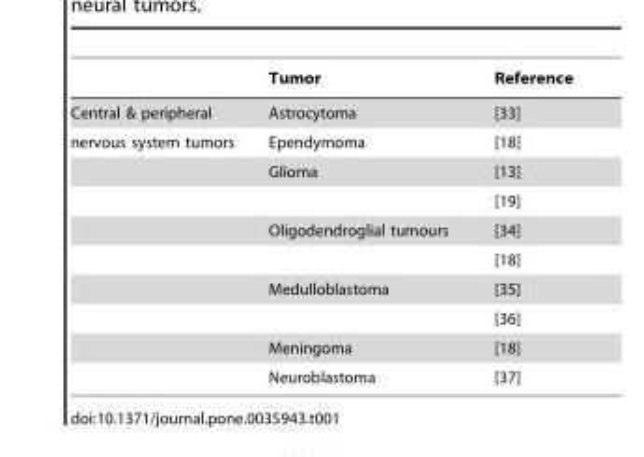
<table><thead><tr><td></td><td>Tumor</td><td>Reference</td></tr></thead><tbody><tr><td>Central &amp; peripheral</td><td>Astrocytoma</td><td>[33]</td></tr><tr><td rowspan="9">nervous system tumors</td><td>Ependymoma</td><td>[18]</td></tr><tr><td>Glioma</td><td>[13]</td></tr><tr><td></td><td>[19]</td></tr><tr><td>Oligodendroglial tumours</td><td>[34]</td></tr><tr><td></td><td>[18]</td></tr><tr><td>Medulloblastoma</td><td>[35]</td></tr><tr><td></td><td>[36]</td></tr><tr><td>Meningoma</td><td>[18]</td></tr><tr><td>Neuroblastoma</td><td>[37]</td></tr></tbody></table>